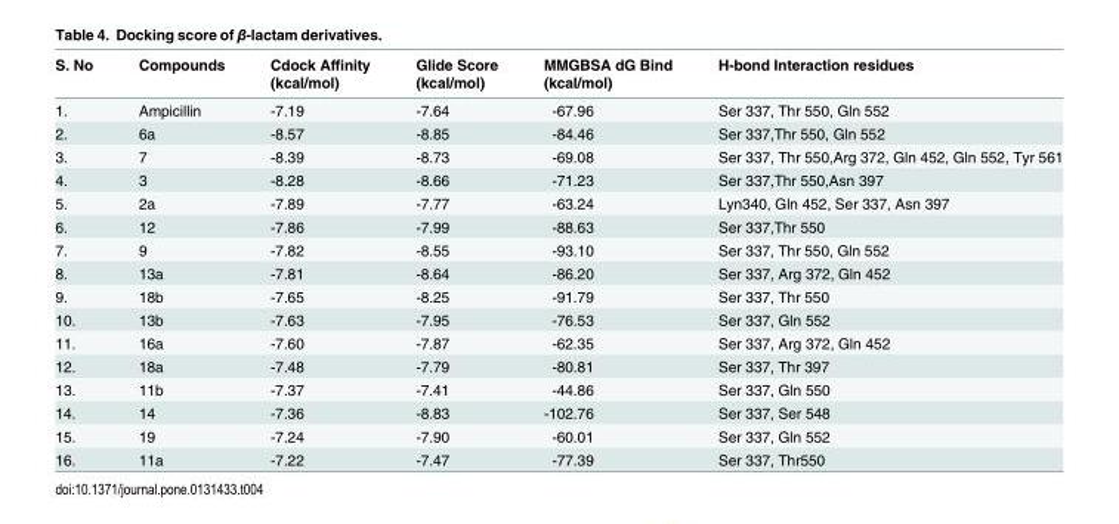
<table><thead><tr><td>S. No</td><td>Compounds</td><td>Cdock Affinity (kcal/mol)</td><td>Glide Score (kcal/mol)</td><td>MMGBSA dG Bind (kcal/mol)</td><td>H-bond Interaction residues</td></tr></thead><tbody><tr><td>1.</td><td>Ampicillin</td><td>-7.19</td><td>-7.64</td><td>-67.96</td><td>Ser 337, Thr 550, Gln 552</td></tr><tr><td>2.</td><td>6a</td><td>-8.57</td><td>-8.85</td><td>-84.46</td><td>Ser 337,Thr 550, Gln 552</td></tr><tr><td>3.</td><td>7</td><td>-8.39</td><td>-8.73</td><td>-69.08</td><td>Ser 337, Thr 550,Arg 372, Gln 452, Gln 552, Tyr 561</td></tr><tr><td>4.</td><td>3</td><td>-8.28</td><td>-8.66</td><td>-71.23</td><td>Ser 337,Thr 550,Asn 397</td></tr><tr><td>5.</td><td>2a</td><td>-7.89</td><td>-7.77</td><td>-63.24</td><td>Lyn340, Gln 452, Ser 337, Asn 397</td></tr><tr><td>6.</td><td>12</td><td>-7.86</td><td>-7.99</td><td>-88.63</td><td>Ser 337,Thr 550</td></tr><tr><td>7.</td><td>9</td><td>-7.82</td><td>-8.55</td><td>-93.10</td><td>Ser 337, Thr 550, Gln 552</td></tr><tr><td>8.</td><td>13a</td><td>-7.81</td><td>-8.64</td><td>-86.20</td><td>Ser 337, Arg 372, Gln 452</td></tr><tr><td>9.</td><td>18b</td><td>-7.65</td><td>-8.25</td><td>-91.79</td><td>Ser 337, Thr 550</td></tr><tr><td>10.</td><td>13b</td><td>-7.63</td><td>-7.95</td><td>-76.53</td><td>Ser 337, Gln 552</td></tr><tr><td>11.</td><td>16a</td><td>-7.60</td><td>-7.87</td><td>-62.35</td><td>Ser 337, Arg 372, Gln 452</td></tr><tr><td>12.</td><td>18a</td><td>-7.48</td><td>-7.79</td><td>-80.81</td><td>Ser 337, Thr 397</td></tr><tr><td>13.</td><td>11b</td><td>-7.37</td><td>-7.41</td><td>-44.86</td><td>Ser 337, Gln 550</td></tr><tr><td>14.</td><td>14</td><td>-7.36</td><td>-8.83</td><td>-102.76</td><td>Ser 337, Ser 548</td></tr><tr><td>15.</td><td>19</td><td>-7.24</td><td>-7.90</td><td>-60.01</td><td>Ser 337, Gln 552</td></tr><tr><td>16.</td><td>11a</td><td>-7.22</td><td>-7.47</td><td>-77.39</td><td>Ser 337, Thr550</td></tr></tbody></table>